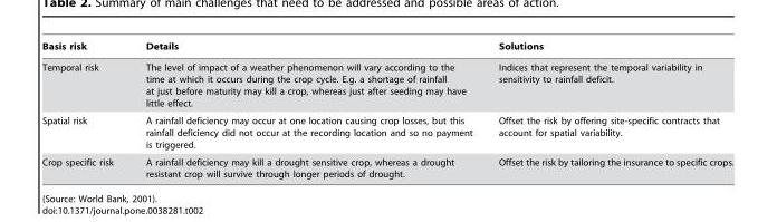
<table><thead><tr><td>Basis risk</td><td>Details</td><td>Solutions</td></tr></thead><tbody><tr><td>Temporal risk</td><td>The level of impact of a weather phenomenon will vary according to the time at which it occurs during the crop cycle. E.g. a shortage of rainfall at just before maturity may kill a crop, whereas just after seeding may have little effect.</td><td>Indices that represent the temporal variability in sensitivity to rainfall deficit.</td></tr><tr><td>Spatial risk</td><td>A rainfall deficiency may occur at one location causing crop losses, but this rainfall deficiency did not occur at the recording location and so no payment is triggered.</td><td>Offset the risk by offering site-specific contracts that account for spatial variability.</td></tr><tr><td>Crop specific risk</td><td>A rainfall deficiency may kill a drought sensitive crop, whereas a drought resistant crop will survive through longer periods of drought.</td><td>Offset the risk by tailoring the insurance to specific crops.</td></tr></tbody></table>